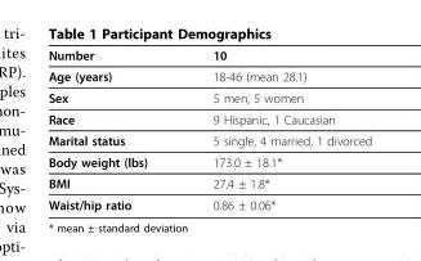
<table><thead><tr><td>Number</td><td>10</td></tr></thead><tbody><tr><td>Age (years)</td><td>18-46 (mean 28.1)</td></tr><tr><td>Sex</td><td>5 men, 5 women</td></tr><tr><td>Race</td><td>9 Hispanic, 1 Caucasian</td></tr><tr><td>Marital status</td><td>5 single, 4 married, 1 divorced</td></tr><tr><td>Body weight (lbs)</td><td>173.0 ± 18.1*</td></tr><tr><td>BMI</td><td>27.4 ± 1.8*</td></tr><tr><td>Waist/hip ratio</td><td>0.86 ± 0.06*</td></tr></tbody></table>